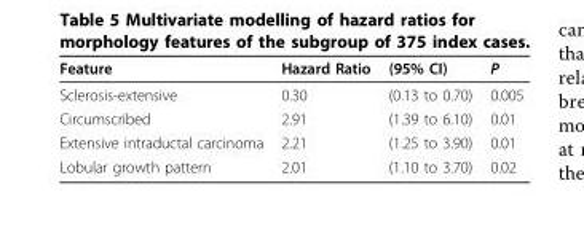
<table><thead><tr><td>Feature</td><td>Hazard Ratio</td><td>(95% CI)</td><td>P</td></tr></thead><tbody><tr><td>Sclerosis-extensive</td><td>0.30</td><td>(0.13 to 0.70)</td><td>0.005</td></tr><tr><td>Circumscribed</td><td>2.91</td><td>(1.39 to 6.10)</td><td>0.01</td></tr><tr><td>Extensive intraductal carcinoma</td><td>2.21</td><td>(1.25 to 3.90)</td><td>0.01</td></tr><tr><td>Lobular growth pattern</td><td>2.01</td><td>(1.10 to 3.70)</td><td>0.02</td></tr></tbody></table>